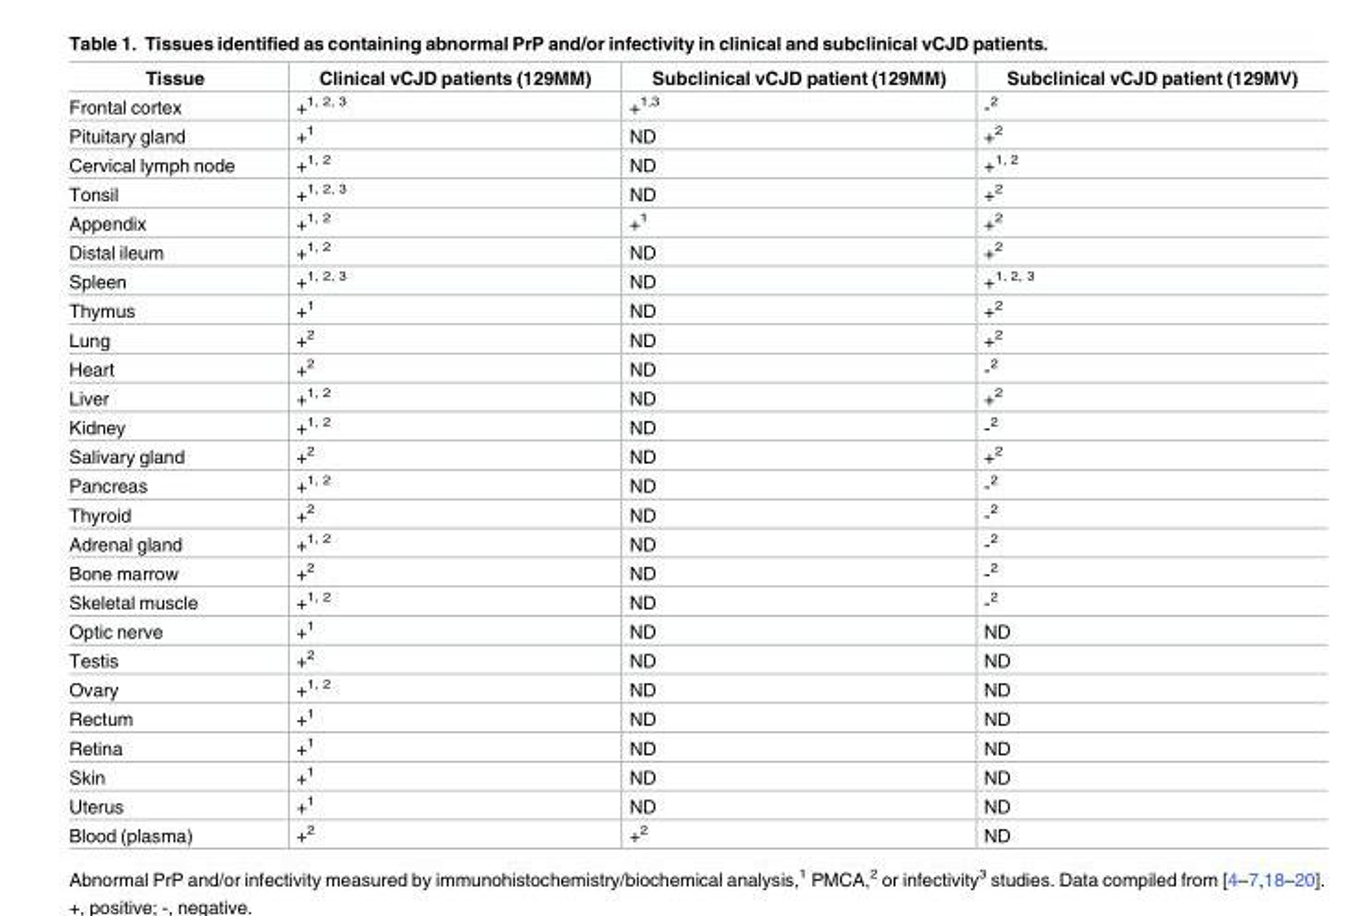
<table><thead><tr><td>Tissue</td><td>Clinical vCJD patients (129MM)</td><td>Subclinical vCJD patient (129MM)</td><td>Subclinical vCJD patient (129MV)</td></tr></thead><tbody><tr><td>Frontal cortex</td><td>+<sup>1, 2, 3</sup></td><td>+<sup>1,3</sup></td><td>-<sup>2</sup></td></tr><tr><td>Pituitary gland</td><td>+<sup>1</sup></td><td>ND</td><td>+<sup>2</sup></td></tr><tr><td>Cervical lymph node</td><td>+<sup>1, 2</sup></td><td>ND</td><td>+<sup>1, 2</sup></td></tr><tr><td>Tonsil</td><td>+<sup>1, 2, 3</sup></td><td>ND</td><td>+<sup>2</sup></td></tr><tr><td>Appendix</td><td>+<sup>1, 2</sup></td><td>+<sup>1</sup></td><td>+<sup>2</sup></td></tr><tr><td>Distal ileum</td><td>+<sup>1, 2</sup></td><td>ND</td><td>+<sup>2</sup></td></tr><tr><td>Spleen</td><td>+<sup>1, 2, 3</sup></td><td>ND</td><td>+<sup>1, 2, 3</sup></td></tr><tr><td>Thymus</td><td>+<sup>1</sup></td><td>ND</td><td>+<sup>2</sup></td></tr><tr><td>Lung</td><td>+<sup>2</sup></td><td>ND</td><td>+<sup>2</sup></td></tr><tr><td>Heart</td><td>+<sup>2</sup></td><td>ND</td><td>-<sup>2</sup></td></tr><tr><td>Liver</td><td>+<sup>1, 2</sup></td><td>ND</td><td>+<sup>2</sup></td></tr><tr><td>Kidney</td><td>+<sup>1, 2</sup></td><td>ND</td><td>-<sup>2</sup></td></tr><tr><td>Salivary gland</td><td>+<sup>2</sup></td><td>ND</td><td>+<sup>2</sup></td></tr><tr><td>Pancreas</td><td>+<sup>1, 2</sup></td><td>ND</td><td>-<sup>2</sup></td></tr><tr><td>Thyroid</td><td>+<sup>2</sup></td><td>ND</td><td>-<sup>2</sup></td></tr><tr><td>Adrenal gland</td><td>+<sup>1, 2</sup></td><td>ND</td><td>-<sup>2</sup></td></tr><tr><td>Bone marrow</td><td>+<sup>2</sup></td><td>ND</td><td>-<sup>2</sup></td></tr><tr><td>Skeletal muscle</td><td>+<sup>1, 2</sup></td><td>ND</td><td>-<sup>2</sup></td></tr><tr><td>Optic nerve</td><td>+<sup>1</sup></td><td>ND</td><td>ND</td></tr><tr><td>Testis</td><td>+<sup>2</sup></td><td>ND</td><td>ND</td></tr><tr><td>Ovary</td><td>+<sup>1, 2</sup></td><td>ND</td><td>ND</td></tr><tr><td>Rectum</td><td>+<sup>1</sup></td><td>ND</td><td>ND</td></tr><tr><td>Retina</td><td>+<sup>1</sup></td><td>ND</td><td>ND</td></tr><tr><td>Skin</td><td>+<sup>1</sup></td><td>ND</td><td>ND</td></tr><tr><td>Uterus</td><td>+<sup>1</sup></td><td>ND</td><td>ND</td></tr><tr><td>Blood (plasma)</td><td>+<sup>2</sup></td><td>+<sup>2</sup></td><td>ND</td></tr></tbody></table>